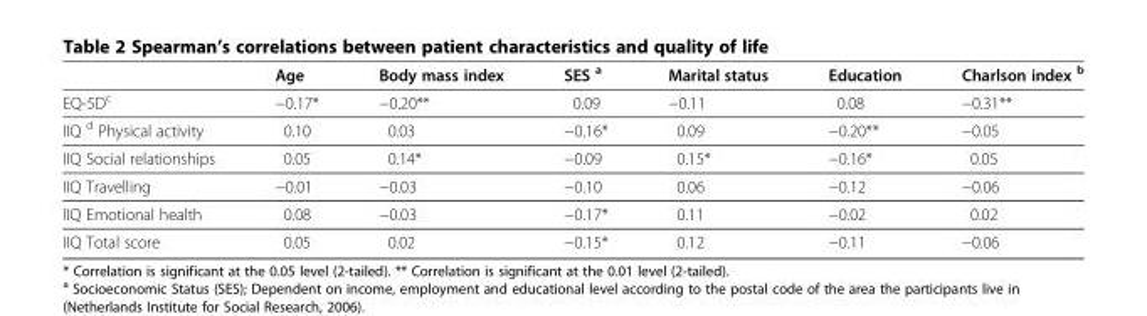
<table><thead><tr><td></td><td>Age</td><td>Body mass index</td><td>SES <sup>a</sup></td><td>Marital status</td><td>Education</td><td>Charlson index <sup>b</sup></td></tr></thead><tbody><tr><td>EQ-5D<sup>c</sup></td><td>−0.17*</td><td>−0.20**</td><td>0.09</td><td>−0.11</td><td>0.08</td><td>−0.31**</td></tr><tr><td>IIQ <sup>d</sup> Physical activity</td><td>0.10</td><td>0.03</td><td>−0.16*</td><td>0.09</td><td>−0.20**</td><td>−0.05</td></tr><tr><td>IIQ Social relationships</td><td>0.05</td><td>0.14*</td><td>−0.09</td><td>0.15*</td><td>−0.16*</td><td>0.05</td></tr><tr><td>IIQ Travelling</td><td>−0.01</td><td>−0.03</td><td>−0.10</td><td>0.06</td><td>−0.12</td><td>−0.06</td></tr><tr><td>IIQ Emotional health</td><td>0.08</td><td>−0.03</td><td>−0.17*</td><td>0.11</td><td>−0.02</td><td>0.02</td></tr><tr><td>IIQ Total score</td><td>0.05</td><td>0.02</td><td>−0.15*</td><td>0.12</td><td>−0.11</td><td>−0.06</td></tr></tbody></table>